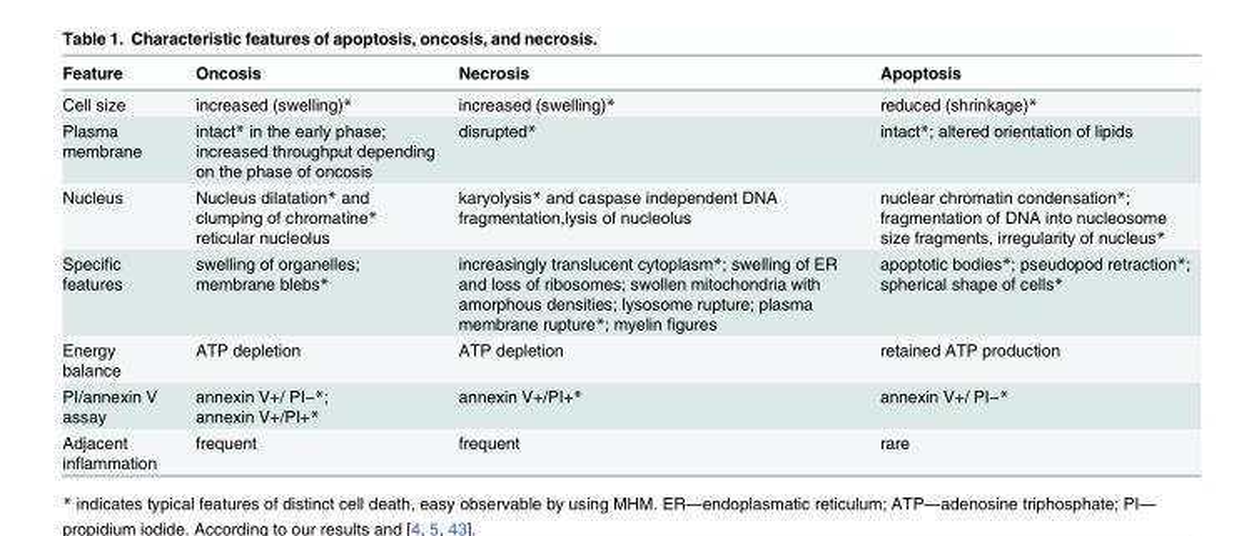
<table><thead><tr><td>Feature</td><td>Oncosis</td><td>Necrosis</td><td>Apoptosis</td></tr></thead><tbody><tr><td>Cell size</td><td>increased (swelling)*</td><td>increased (swelling)*</td><td>reduced (shrinkage)*</td></tr><tr><td>Plasma membrane</td><td>intact* in the early phase; increased throughput depending on the phase of oncosis</td><td>disrupted*</td><td>intact*; altered orientation of lipids</td></tr><tr><td>Nucleus</td><td>Nucleus dilatation* and clumping of chromatine* reticular nucleolus</td><td>karyolysis* and caspase independent DNA fragmentation,lysis of nucleolus</td><td>nuclear chromatin condensation*; fragmentation of DNA into nucleosome size fragments, irregularity of nucleus*</td></tr><tr><td>Specific features</td><td>swelling of organelles; membrane blebs*</td><td>increasingly translucent cytoplasm*; swelling of ER and loss of ribosomes; swollen mitochondria with amorphous densities; lysosome rupture; plasma membrane rupture*; myelin figures</td><td>apoptotic bodies*; pseudopod retraction*; spherical shape of cells*</td></tr><tr><td>Energy balance</td><td>ATP depletion</td><td>ATP depletion</td><td>retained ATP production</td></tr><tr><td>PI/annexin V assay</td><td>annexin V+/ PI−*; annexin V+/PI+*</td><td>annexin V+/PI+*</td><td>annexin V+/ PI−*</td></tr><tr><td>Adjacent inflammation</td><td>frequent</td><td>frequent</td><td>rare</td></tr></tbody></table>